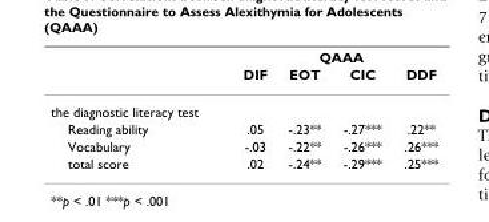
<table><thead><tr><td rowspan="2"></td><td colspan="4">QAAA</td></tr><tr><td>DIF</td><td>EOT</td><td>CIC</td><td>DDF</td></tr></thead><tbody><tr><td colspan="5">the diagnostic literacy test</td></tr><tr><td>Reading ability</td><td>.05</td><td>-.23**</td><td>-.27***</td><td>.22**</td></tr><tr><td>Vocabulary</td><td>-.03</td><td>-.22**</td><td>-.26***</td><td>.26***</td></tr><tr><td>total score</td><td>.02</td><td>-.24**</td><td>-.29***</td><td>.25***</td></tr></tbody></table>